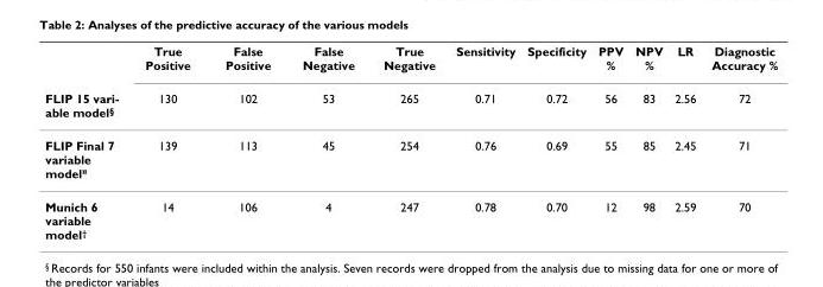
<table><thead><tr><td rowspan="2">FLIP 15 vari- able model§</td><td rowspan="2">True Positive 130</td><td rowspan="2">False Positive 102</td><td rowspan="2">False Negative 53</td><td rowspan="2">True Negative 265</td><td rowspan="2">Sensitivity 0.71</td><td rowspan="2">Specificity 0.72</td><td rowspan="2">PPV % 56</td><td rowspan="2">NPV % 83</td><td rowspan="2">LR 2.56</td><td rowspan="2">Diagnostic Accuracy % 72</td></tr><tr></tr></thead><tbody><tr><td>FLIP Final 7 variable model<sup>¤</sup></td><td>139</td><td>113</td><td>45</td><td>254</td><td>0.76</td><td>0.69</td><td>55</td><td>85</td><td>2.45</td><td>71</td></tr><tr><td>Munich 6 variable model<sup>†</sup></td><td>14</td><td>106</td><td>4</td><td>247</td><td>0.78</td><td>0.70</td><td>12</td><td>98</td><td>2.59</td><td>70</td></tr></tbody></table>